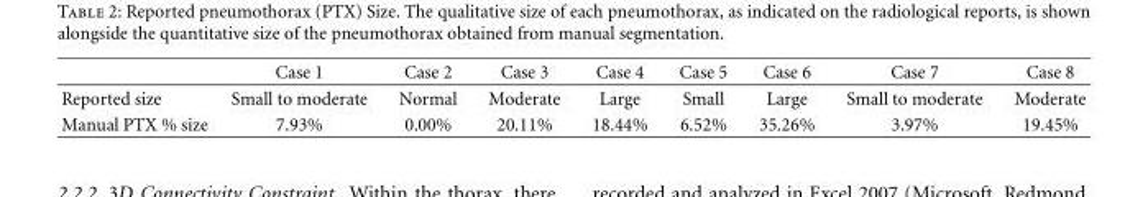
<table><thead><tr><td></td><td>Case 1</td><td>Case 2</td><td>Case 3</td><td>Case 4</td><td>Case 5</td><td>Case 6</td><td>Case 7</td><td>Case 8</td></tr></thead><tbody><tr><td>Reported size</td><td>Small to moderate</td><td>Normal</td><td>Moderate</td><td>Large</td><td>Small</td><td>Large</td><td>Small to moderate</td><td>Moderate</td></tr><tr><td>Manual PTX % size</td><td>7.93%</td><td>0.00%</td><td>20.11%</td><td>18.44%</td><td>6.52%</td><td>35.26%</td><td>3.97%</td><td>19.45%</td></tr></tbody></table>